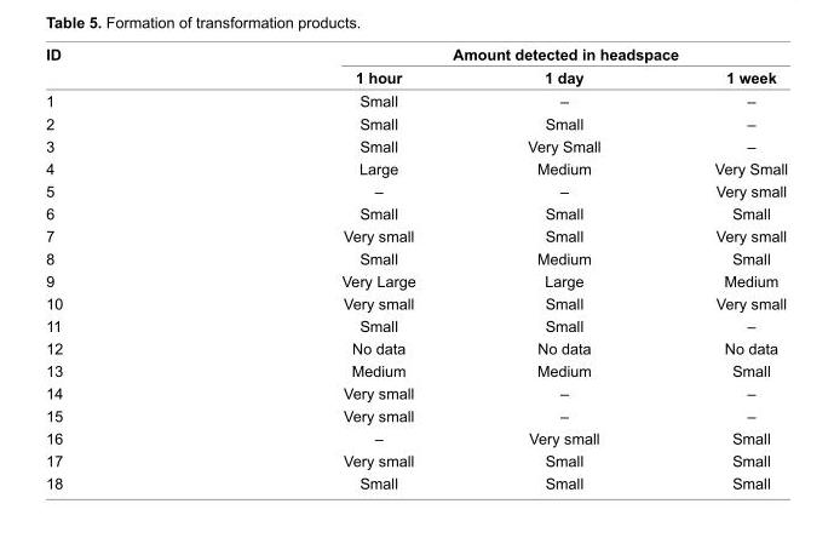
<table><thead><tr><td rowspan="2">ID</td><td colspan="3">Amount detected in headspace</td></tr><tr><td>1 hour</td><td>1 day</td><td>1 week</td></tr></thead><tbody><tr><td>1</td><td>Small</td><td>–</td><td>–</td></tr><tr><td>2</td><td>Small</td><td>Small</td><td>–</td></tr><tr><td>3</td><td>Small</td><td>Very Small</td><td>–</td></tr><tr><td>4</td><td>Large</td><td>Medium</td><td>Very Small</td></tr><tr><td>5</td><td>–</td><td>–</td><td>Very small</td></tr><tr><td>6</td><td>Small</td><td>Small</td><td>Small</td></tr><tr><td>7</td><td>Very small</td><td>Small</td><td>Very small</td></tr><tr><td>8</td><td>Small</td><td>Medium</td><td>Small</td></tr><tr><td>9</td><td>Very Large</td><td>Large</td><td>Medium</td></tr><tr><td>10</td><td>Very small</td><td>Small</td><td>Very small</td></tr><tr><td>11</td><td>Small</td><td>Small</td><td>–</td></tr><tr><td>12</td><td>No data</td><td>No data</td><td>No data</td></tr><tr><td>13</td><td>Medium</td><td>Medium</td><td>Small</td></tr><tr><td>14</td><td>Very small</td><td>–</td><td>–</td></tr><tr><td>15</td><td>Very small</td><td>–</td><td>–</td></tr><tr><td>16</td><td>–</td><td>Very small</td><td>Small</td></tr><tr><td>17</td><td>Very small</td><td>Small</td><td>Small</td></tr><tr><td>18</td><td>Small</td><td>Small</td><td>Small</td></tr></tbody></table>